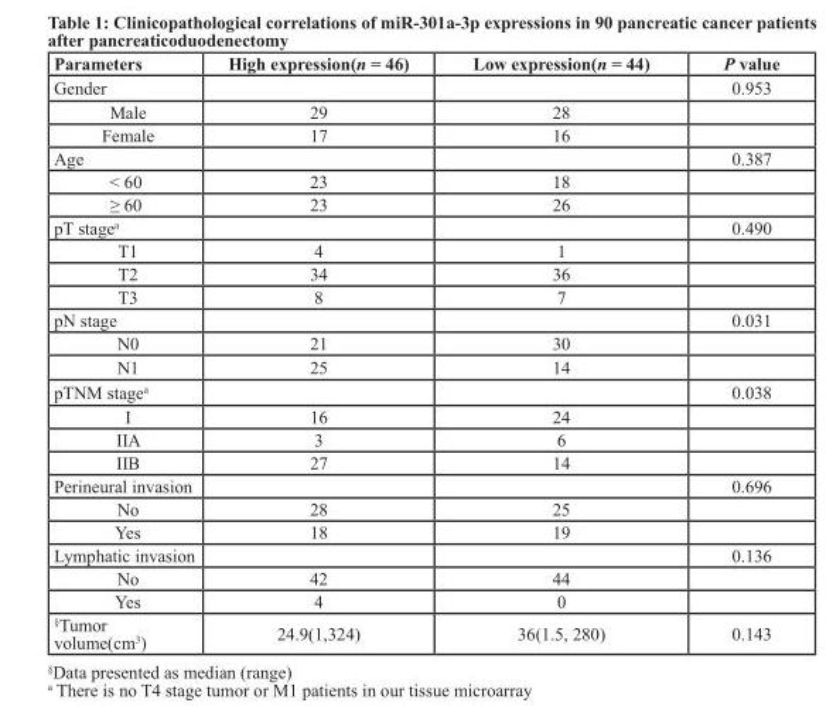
<table><thead><tr><td>Parameters</td><td>High expression(n = 46)</td><td>Low expression(n = 44)</td><td>P value</td></tr></thead><tbody><tr><td>Gender</td><td></td><td></td><td>0.953</td></tr><tr><td>Male</td><td>29</td><td>28</td><td></td></tr><tr><td>Female</td><td>17</td><td>16</td><td></td></tr><tr><td>Age</td><td></td><td></td><td>0.387</td></tr><tr><td>&lt; 60</td><td>23</td><td>18</td><td></td></tr><tr><td>≥ 60</td><td>23</td><td>26</td><td></td></tr><tr><td>pT stage<sup>a</sup></td><td></td><td></td><td>0.490</td></tr><tr><td>T1</td><td>4</td><td>1</td><td></td></tr><tr><td>T2</td><td>34</td><td>36</td><td></td></tr><tr><td>T3</td><td>8</td><td>7</td><td></td></tr><tr><td>pN stage</td><td></td><td></td><td>0.031</td></tr><tr><td>N0</td><td>21</td><td>30</td><td></td></tr><tr><td>N1</td><td>25</td><td>14</td><td></td></tr><tr><td>pTNM stage<sup>a</sup></td><td></td><td></td><td>0.038</td></tr><tr><td>I</td><td>16</td><td>24</td><td></td></tr><tr><td>IIA</td><td>3</td><td>6</td><td></td></tr><tr><td>IIB</td><td>27</td><td>14</td><td></td></tr><tr><td>Perineural invasion</td><td></td><td></td><td>0.696</td></tr><tr><td>No</td><td>28</td><td>25</td><td></td></tr><tr><td>Yes</td><td>18</td><td>19</td><td></td></tr><tr><td>Lymphatic invasion</td><td></td><td></td><td>0.136</td></tr><tr><td>No</td><td>42</td><td>44</td><td></td></tr><tr><td>Yes</td><td>4</td><td>0</td><td></td></tr><tr><td><sup>§</sup>Tumor volume(cm<sup>3</sup>)</td><td>24.9(1,324)</td><td>36(1.5, 280)</td><td>0.143</td></tr></tbody></table>